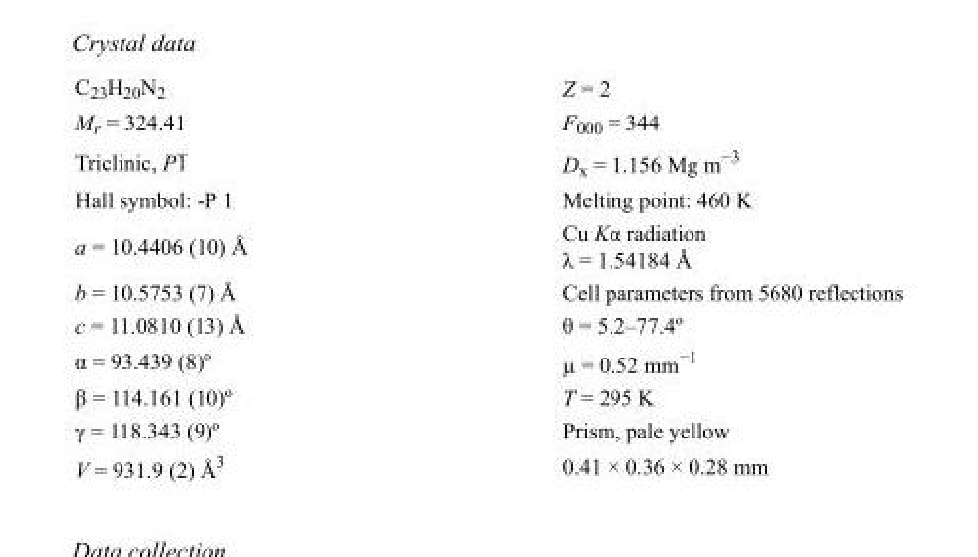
<table><tbody><tr><td>C<sub>23</sub>H<sub>20</sub>N<sub>2</sub></td><td>Z = 2</td></tr><tr><td>M<sub>r</sub> = 324.41</td><td>F000 = 344</td></tr><tr><td>Triclinic, P1</td><td>D<sub>x</sub> = 1.156 Mg m<sup>−3</sup></td></tr><tr><td>Hall symbol: -P 1</td><td>Melting point: 460 K</td></tr><tr><td>a = 10.4406 (10) Å</td><td>Cu Kα radiation λ = 1.54184 Å</td></tr><tr><td>b = 10.5753 (7) Å</td><td>Cell parameters from 5680 reflections</td></tr><tr><td>c = 11.0810 (13) Å</td><td>θ = 5.2–77.4º</td></tr><tr><td>α = 93.439 (8)º</td><td>µ = 0.52 mm<sup>−1</sup></td></tr><tr><td>β = 114.161 (10)º</td><td>T = 295 K</td></tr><tr><td>γ = 118.343 (9)º</td><td>Prism, pale yellow</td></tr><tr><td>V = 931.9 (2) Å<sup>3</sup></td><td>0.41 × 0.36 × 0.28 mm</td></tr></tbody></table>